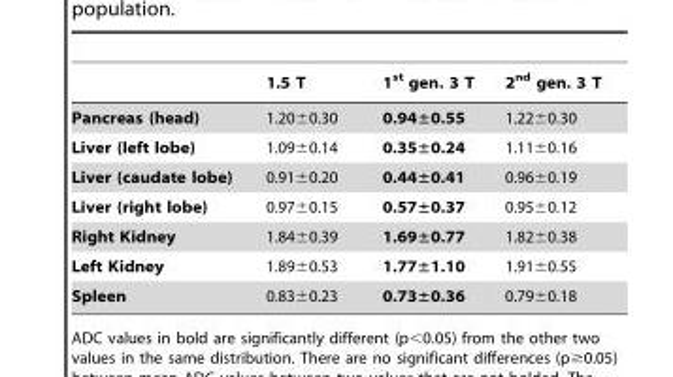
<table><thead><tr><td></td><td>1.5 T</td><td>1<sup>st</sup> gen. 3 T</td><td>2<sup>nd</sup> gen. 3 T</td></tr></thead><tbody><tr><td>Pancreas (head)</td><td>1.20±0.30</td><td>0.94±0.55</td><td>1.22±0.30</td></tr><tr><td>Liver (left lobe)</td><td>1.09±0.14</td><td>0.35±0.24</td><td>1.11±0.16</td></tr><tr><td>Liver (caudate lobe)</td><td>0.91±0.20</td><td>0.44±0.41</td><td>0.96±0.19</td></tr><tr><td>Liver (right lobe)</td><td>0.97±0.15</td><td>0.57±0.37</td><td>0.95±0.12</td></tr><tr><td>Right Kidney</td><td>1.84±0.39</td><td>1.69±0.77</td><td>1.82±0.38</td></tr><tr><td>Left Kidney</td><td>1.89±0.53</td><td>1.77±1.10</td><td>1.91±0.55</td></tr><tr><td>Spleen</td><td>0.83±0.23</td><td>0.73±0.36</td><td>0.79±0.18</td></tr></tbody></table>